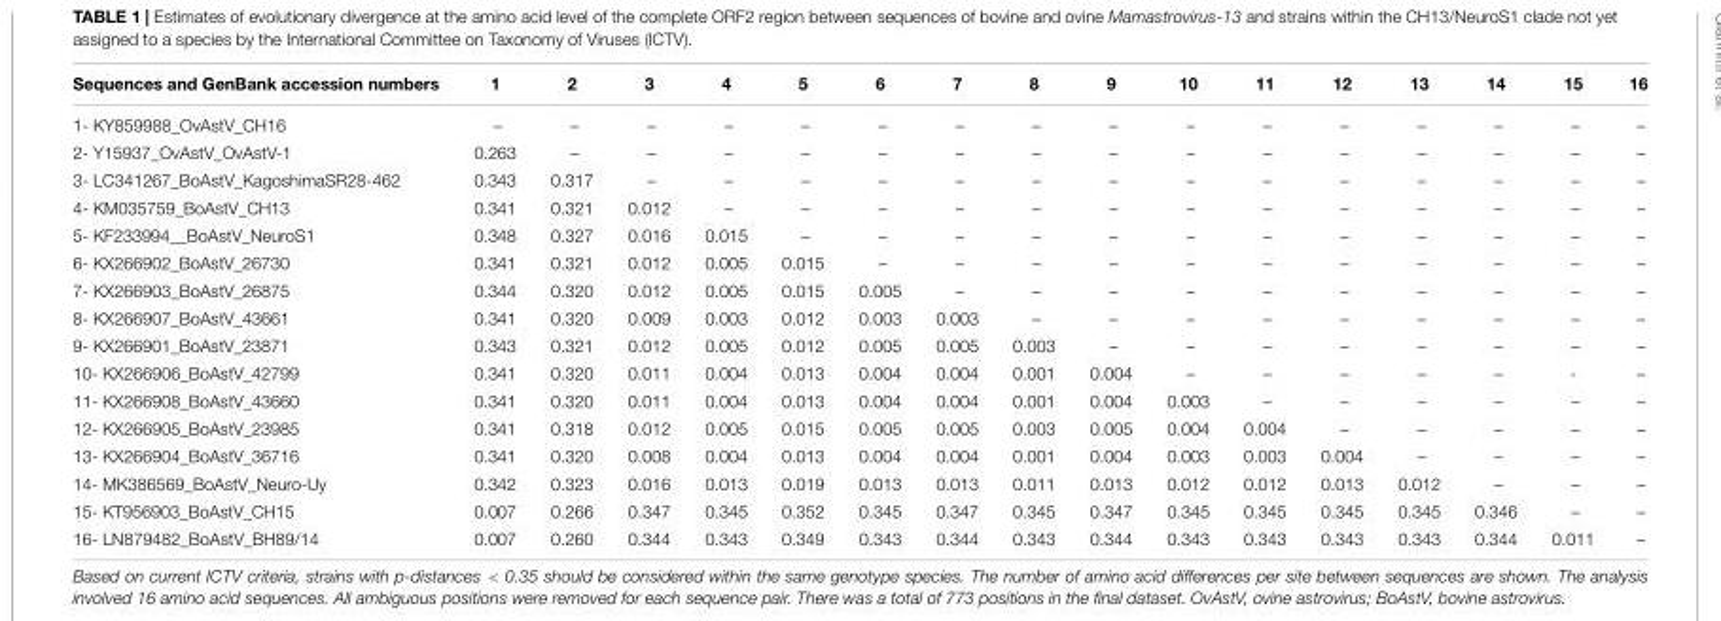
<table><thead><tr><td>Sequences and GenBank accession numbers</td><td>1</td><td>2</td><td>3</td><td>4</td><td>5</td><td>6</td><td>7</td><td>8</td><td>9</td><td>10</td><td>11</td><td>12</td><td>13</td><td>14</td><td>15</td><td>16</td></tr></thead><tbody><tr><td>1- KY859988_OvAstV_CH16</td><td>–</td><td>–</td><td>–</td><td>–</td><td>–</td><td>–</td><td>–</td><td>–</td><td>–</td><td>–</td><td>–</td><td>–</td><td>–</td><td>–</td><td>–</td><td>–</td></tr><tr><td>2- Y15937_OvAstV_OvAstV-1</td><td>0.263</td><td>–</td><td>–</td><td>–</td><td>–</td><td>–</td><td>–</td><td>–</td><td>–</td><td>–</td><td>–</td><td>–</td><td>–</td><td>–</td><td>–</td><td>–</td></tr><tr><td>3- LC341267_BoAstV_KagoshimaSR28-462</td><td>0.343</td><td>0.317</td><td>–</td><td>–</td><td>–</td><td>–</td><td>–</td><td>–</td><td>–</td><td>–</td><td>–</td><td>–</td><td>–</td><td>–</td><td>–</td><td>–</td></tr><tr><td>4- KM035759_BoAstV_CH13</td><td>0.341</td><td>0.321</td><td>0.012</td><td>–</td><td>–</td><td>–</td><td>–</td><td>–</td><td>–</td><td>–</td><td>–</td><td>–</td><td>–</td><td>–</td><td>–</td><td>–</td></tr><tr><td>5- KF233994__BoAstV_NeuroS1</td><td>0.348</td><td>0.327</td><td>0.016</td><td>0.015</td><td>–</td><td>–</td><td>–</td><td>–</td><td>–</td><td>–</td><td>–</td><td>–</td><td>–</td><td>–</td><td>–</td><td>–</td></tr><tr><td>6- KX266902_BoAstV_26730</td><td>0.341</td><td>0.321</td><td>0.012</td><td>0.005</td><td>0.015</td><td>–</td><td>–</td><td>–</td><td>–</td><td>–</td><td>–</td><td>–</td><td>–</td><td>–</td><td>–</td><td>–</td></tr><tr><td>7- KX266903_BoAstV_26875</td><td>0.344</td><td>0.320</td><td>0.012</td><td>0.005</td><td>0.015</td><td>0.005</td><td>–</td><td>–</td><td>–</td><td>–</td><td>–</td><td>–</td><td>–</td><td>–</td><td>–</td><td>–</td></tr><tr><td>8- KX266907_BoAstV_43661</td><td>0.341</td><td>0.320</td><td>0.009</td><td>0.003</td><td>0.012</td><td>0.003</td><td>0.003</td><td>–</td><td>–</td><td>–</td><td>–</td><td>–</td><td>–</td><td>–</td><td>–</td><td>–</td></tr><tr><td>9- KX266901_BoAstV_23871</td><td>0.343</td><td>0.321</td><td>0.012</td><td>0.005</td><td>0.012</td><td>0.005</td><td>0.005</td><td>0.003</td><td>–</td><td>–</td><td>–</td><td>–</td><td>–</td><td>–</td><td>–</td><td>–</td></tr><tr><td>10- KX266906_BoAstV_42799</td><td>0.341</td><td>0.320</td><td>0.011</td><td>0.004</td><td>0.013</td><td>0.004</td><td>0.004</td><td>0.001</td><td>0.004</td><td>–</td><td>–</td><td>–</td><td>–</td><td>–</td><td>-</td><td>–</td></tr><tr><td>11- KX266908_BoAstV_43660</td><td>0.341</td><td>0.320</td><td>0.011</td><td>0.004</td><td>0.013</td><td>0.004</td><td>0.004</td><td>0.001</td><td>0.004</td><td>0.003</td><td>–</td><td>–</td><td>–</td><td>–</td><td>–</td><td>–</td></tr><tr><td>12- KX266905_BoAstV_23985</td><td>0.341</td><td>0.318</td><td>0.012</td><td>0.005</td><td>0.015</td><td>0.005</td><td>0.005</td><td>0.003</td><td>0.005</td><td>0.004</td><td>0.004</td><td>–</td><td>–</td><td>–</td><td>–</td><td>–</td></tr><tr><td>13- KX266904_BoAstV_36716</td><td>0.341</td><td>0.320</td><td>0.008</td><td>0.004</td><td>0.013</td><td>0.004</td><td>0.004</td><td>0.001</td><td>0.004</td><td>0.003</td><td>0.003</td><td>0.004</td><td>–</td><td>–</td><td>–</td><td>–</td></tr><tr><td>14- MK386569_BoAstV_Neuro-Uy</td><td>0.342</td><td>0.323</td><td>0.016</td><td>0.013</td><td>0.019</td><td>0.013</td><td>0.013</td><td>0.011</td><td>0.013</td><td>0.012</td><td>0.012</td><td>0.013</td><td>0.012</td><td>–</td><td>–</td><td>–</td></tr><tr><td>15- KT956903_BoAstV_CH15</td><td>0.007</td><td>0.266</td><td>0.347</td><td>0.345</td><td>0.352</td><td>0.345</td><td>0.347</td><td>0.345</td><td>0.347</td><td>0.345</td><td>0.345</td><td>0.345</td><td>0.345</td><td>0.346</td><td>–</td><td>–</td></tr><tr><td>16- LN879482_BoAstV_BH89/14</td><td>0.007</td><td>0.260</td><td>0.344</td><td>0.343</td><td>0.349</td><td>0.343</td><td>0.344</td><td>0.343</td><td>0.344</td><td>0.343</td><td>0.343</td><td>0.343</td><td>0.343</td><td>0.344</td><td>0.011</td><td>–</td></tr></tbody></table>